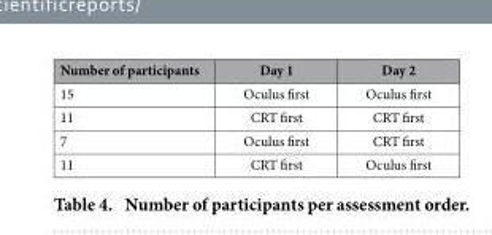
<table><thead><tr><td>Number of participants</td><td>Day 1</td><td>Day 2</td></tr></thead><tbody><tr><td>15</td><td>Oculus first</td><td>Oculus first</td></tr><tr><td>11</td><td>CRT first</td><td>CRT first</td></tr><tr><td>7</td><td>Oculus first</td><td>CRT first</td></tr><tr><td>11</td><td>CRT first</td><td>Oculus first</td></tr></tbody></table>